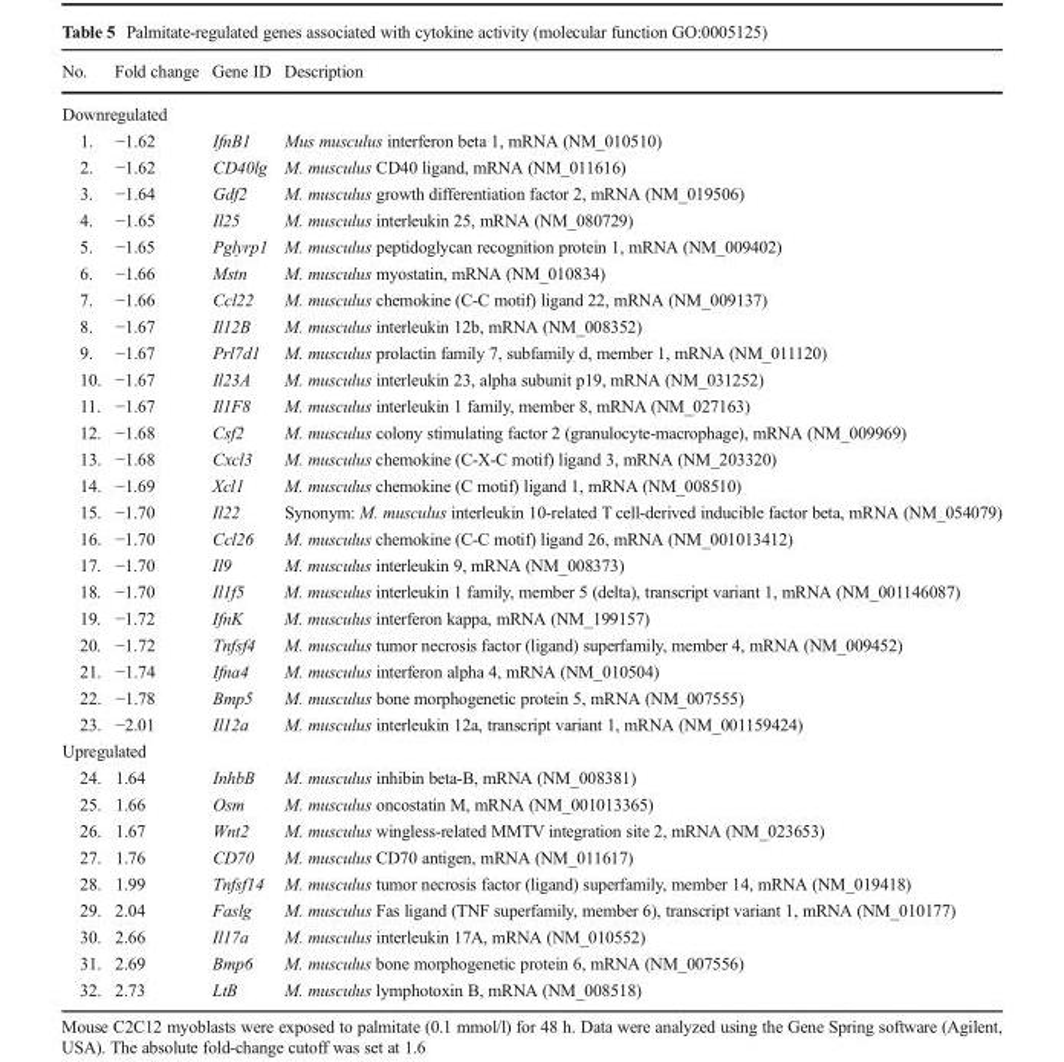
<table><thead><tr><td>No.</td><td>Fold change</td><td>Gene ID</td><td>Description</td></tr></thead><tbody><tr><td colspan="4">Downregulated</td></tr><tr><td>1.</td><td>−1.62</td><td>IfnB1</td><td>Mus musculus interferon beta 1, mRNA (NM_010510)</td></tr><tr><td>2.</td><td>−1.62</td><td>CD40lg</td><td>M. musculus CD40 ligand, mRNA (NM_011616)</td></tr><tr><td>3.</td><td>−1.64</td><td>Gdf2</td><td>M. musculus growth differentiation factor 2, mRNA (NM_019506)</td></tr><tr><td>4.</td><td>−1.65</td><td>Il25</td><td>M. musculus interleukin 25, mRNA (NM_080729)</td></tr><tr><td>5.</td><td>−1.65</td><td>Pglyrp1</td><td>M. musculus peptidoglycan recognition protein 1, mRNA (NM_009402)</td></tr><tr><td>6.</td><td>−1.66</td><td>Mstn</td><td>M. musculus myostatin, mRNA (NM_010834)</td></tr><tr><td>7.</td><td>−1.66</td><td>Ccl22</td><td>M. musculus chemokine (C-C motif) ligand 22, mRNA (NM_009137)</td></tr><tr><td>8.</td><td>−1.67</td><td>Il12B</td><td>M. musculus interleukin 12b, mRNA (NM_008352)</td></tr><tr><td>9.</td><td>−1.67</td><td>Prl7d1</td><td>M. musculus prolactin family 7, subfamily d, member 1, mRNA (NM_011120)</td></tr><tr><td>10.</td><td>−1.67</td><td>Il23A</td><td>M. musculus interleukin 23, alpha subunit p19, mRNA (NM_031252)</td></tr><tr><td>11.</td><td>−1.67</td><td>Il1F8</td><td>M. musculus interleukin 1 family, member 8, mRNA (NM_027163)</td></tr><tr><td>12.</td><td>−1.68</td><td>Csf2</td><td>M. musculus colony stimulating factor 2 (granulocyte-macrophage), mRNA (NM_009969)</td></tr><tr><td>13.</td><td>−1.68</td><td>Cxcl3</td><td>M. musculus chemokine (C-X-C motif) ligand 3, mRNA (NM_203320)</td></tr><tr><td>14.</td><td>−1.69</td><td>Xcl1</td><td>M. musculus chemokine (C motif) ligand 1, mRNA (NM_008510)</td></tr><tr><td>15.</td><td>−1.70</td><td>Il22</td><td>Synonym: M. musculus interleukin 10-related T cell-derived inducible factor beta, mRNA (NM_054079)</td></tr><tr><td>16.</td><td>−1.70</td><td>Ccl26</td><td>M. musculus chemokine (C-C motif) ligand 26, mRNA (NM_001013412)</td></tr><tr><td>17.</td><td>−1.70</td><td>Il9</td><td>M. musculus interleukin 9, mRNA (NM_008373)</td></tr><tr><td>18.</td><td>−1.70</td><td>Il1f5</td><td>M. musculus interleukin 1 family, member 5 (delta), transcript variant 1, mRNA (NM_001146087)</td></tr><tr><td>19.</td><td>−1.72</td><td>IfnK</td><td>M. musculus interferon kappa, mRNA (NM_199157)</td></tr><tr><td>20.</td><td>−1.72</td><td>Tnfsf4</td><td>M. musculus tumor necrosis factor (ligand) superfamily, member 4, mRNA (NM_009452)</td></tr><tr><td>21.</td><td>−1.74</td><td>Ifna4</td><td>M. musculus interferon alpha 4, mRNA (NM_010504)</td></tr><tr><td>22.</td><td>−1.78</td><td>Bmp5</td><td>M. musculus bone morphogenetic protein 5, mRNA (NM_007555)</td></tr><tr><td>23.</td><td>−2.01</td><td>Il12a</td><td>M. musculus interleukin 12a, transcript variant 1, mRNA (NM_001159424)</td></tr><tr><td colspan="4">Upregulated</td></tr><tr><td>24.</td><td>1.64</td><td>InhbB</td><td>M. musculus inhibin beta-B, mRNA (NM_008381)</td></tr><tr><td>25.</td><td>1.66</td><td>Osm</td><td>M. musculus oncostatin M, mRNA (NM_001013365)</td></tr><tr><td>26.</td><td>1.67</td><td>Wnt2</td><td>M. musculus wingless-related MMTV integration site 2, mRNA (NM_023653)</td></tr><tr><td>27.</td><td>1.76</td><td>CD70</td><td>M. musculus CD70 antigen, mRNA (NM_011617)</td></tr><tr><td>28.</td><td>1.99</td><td>Tnfsf14</td><td>M. musculus tumor necrosis factor (ligand) superfamily, member 14, mRNA (NM_019418)</td></tr><tr><td>29.</td><td>2.04</td><td>Faslg</td><td>M. musculus Fas ligand (TNF superfamily, member 6), transcript variant 1, mRNA (NM_010177)</td></tr><tr><td>30.</td><td>2.66</td><td>Il17a</td><td>M. musculus interleukin 17A, mRNA (NM_010552)</td></tr><tr><td>31.</td><td>2.69</td><td>Bmp6</td><td>M. musculus bone morphogenetic protein 6, mRNA (NM_007556)</td></tr><tr><td>32.</td><td>2.73</td><td>LtB</td><td>M. musculus lymphotoxin B, mRNA (NM_008518)</td></tr></tbody></table>